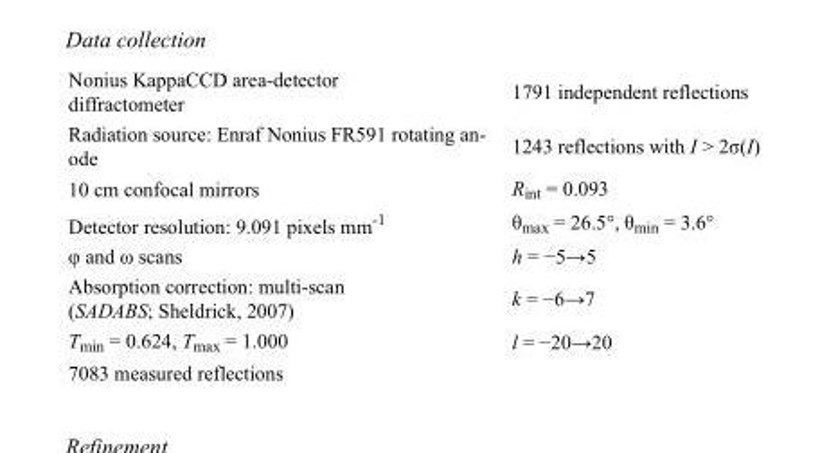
<table><tbody><tr><td>Nonius KappaCCD area-detector diffractometer</td><td>1791 independent reflections</td></tr><tr><td>Radiation source: Enraf Nonius FR591 rotating an- ode</td><td>1243 reflections with I &gt; 2σ(I)</td></tr><tr><td>10 cm confocal mirrors</td><td>R<sub>int</sub> = 0.093</td></tr><tr><td>Detector resolution: 9.091 pixels mm<sup>-1</sup></td><td>θ<sub>max</sub> = 26.5°, θ<sub>min</sub> = 3.6°</td></tr><tr><td>φ and ω scans</td><td>h = −5→5</td></tr><tr><td>Absorption correction: multi-scan (SADABS; Sheldrick, 2007)</td><td>k = −6→7</td></tr><tr><td>T<sub>min</sub> = 0.624, T<sub>max</sub> = 1.000</td><td>l = −20→20</td></tr><tr><td>7083 measured reflections</td><td></td></tr></tbody></table>